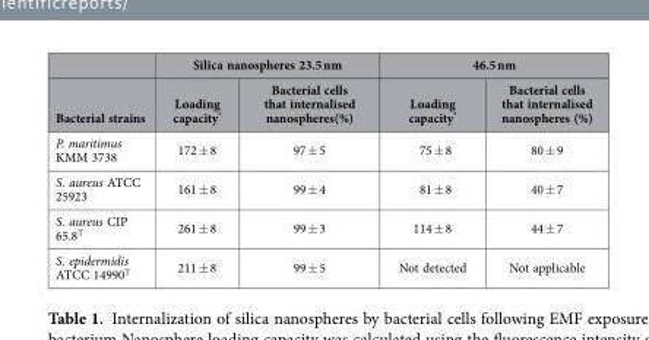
<table><thead><tr><td rowspan="2">Bacterial strains</td><td colspan="2">Silica nanospheres 23.5 nm</td><td colspan="2">46.5 nm</td></tr><tr><td>Loading capacity*</td><td>Bacterial cells that internalised nanospheres(%)</td><td>Loading capacity*</td><td>Bacterial cells that internalised nanospheres (%)</td></tr></thead><tbody><tr><td>P. maritimus KMM 3738</td><td>172 ± 8</td><td>97 ± 5</td><td>75 ± 8</td><td>80 ± 9</td></tr><tr><td>S. aureus ATCC 25923</td><td>161 ± 8</td><td>99 ± 4</td><td>81 ± 8</td><td>40 ± 7</td></tr><tr><td>S. aureus CIP 65.8<sup>T</sup></td><td>261 ± 8</td><td>99 ± 3</td><td>114 ± 8</td><td>44 ± 7</td></tr><tr><td>S. epidermidis ATCC 14990<sup>T</sup></td><td>211 ± 8</td><td>99 ± 5</td><td>Not detected</td><td>Not applicable</td></tr></tbody></table>